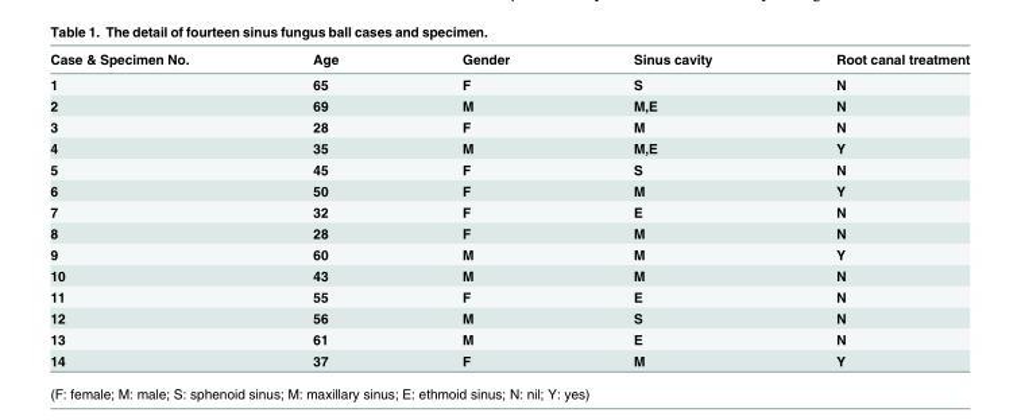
<table><thead><tr><td>Case &amp; Specimen No.</td><td>Age</td><td>Gender</td><td>Sinus cavity</td><td>Root canal treatment</td></tr></thead><tbody><tr><td>1</td><td>65</td><td>F</td><td>S</td><td>N</td></tr><tr><td>2</td><td>69</td><td>M</td><td>M,E</td><td>N</td></tr><tr><td>3</td><td>28</td><td>F</td><td>M</td><td>N</td></tr><tr><td>4</td><td>35</td><td>M</td><td>M,E</td><td>Y</td></tr><tr><td>5</td><td>45</td><td>F</td><td>S</td><td>N</td></tr><tr><td>6</td><td>50</td><td>F</td><td>M</td><td>Y</td></tr><tr><td>7</td><td>32</td><td>F</td><td>E</td><td>N</td></tr><tr><td>8</td><td>28</td><td>F</td><td>M</td><td>N</td></tr><tr><td>9</td><td>60</td><td>M</td><td>M</td><td>Y</td></tr><tr><td>10</td><td>43</td><td>M</td><td>M</td><td>N</td></tr><tr><td>11</td><td>55</td><td>F</td><td>E</td><td>N</td></tr><tr><td>12</td><td>56</td><td>M</td><td>S</td><td>N</td></tr><tr><td>13</td><td>61</td><td>M</td><td>E</td><td>N</td></tr><tr><td>14</td><td>37</td><td>F</td><td>M</td><td>Y</td></tr></tbody></table>